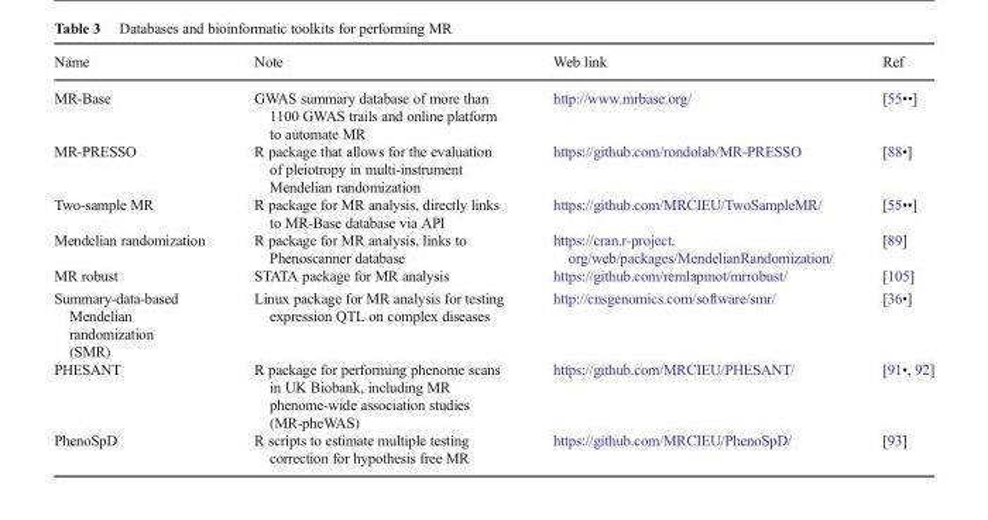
<table><thead><tr><td>Name</td><td>Note</td><td>Web link</td><td>Ref</td></tr></thead><tbody><tr><td>MR-Base</td><td>GWAS summary database of more than 1100 GWAS trails and online platform to automate MR</td><td>http://www.mrbase.org/</td><td>[55••]</td></tr><tr><td>MR-PRESSO</td><td>R package that allows for the evaluation of pleiotropy in multi-instrument Mendelian randomization</td><td>https://github.com/rondolab/MR-PRESSO</td><td>[88•]</td></tr><tr><td>Two-sample MR</td><td>R package for MR analysis, directly links to MR-Base database via API</td><td>https://github.com/MRCIEU/TwoSampleMR/</td><td>[55••]</td></tr><tr><td>Mendelian randomization</td><td>R package for MR analysis, links to Phenoscanner database</td><td>https://cran.r-project. org/web/packages/MendelianRandomization/</td><td>[89]</td></tr><tr><td>MR robust</td><td>STATA package for MR analysis</td><td>https://github.com/remlapmot/mrrobust/</td><td>[105]</td></tr><tr><td>Summary-data-based Mendelian randomization (SMR)</td><td>Linux package for MR analysis for testing expression QTL on complex diseases</td><td>http://cnsgenomics.com/software/smr/</td><td>[36•]</td></tr><tr><td>PHESANT</td><td>R package for performing phenome scans in UK Biobank, including MR phenome-wide association studies (MR-pheWAS)</td><td>https://github.com/MRCIEU/PHESANT/</td><td>[91•, 92]</td></tr><tr><td>PhenoSpD</td><td>R scripts to estimate multiple testing correction for hypothesis free MR</td><td>https://github.com/MRCIEU/PhenoSpD/</td><td>[93]</td></tr></tbody></table>